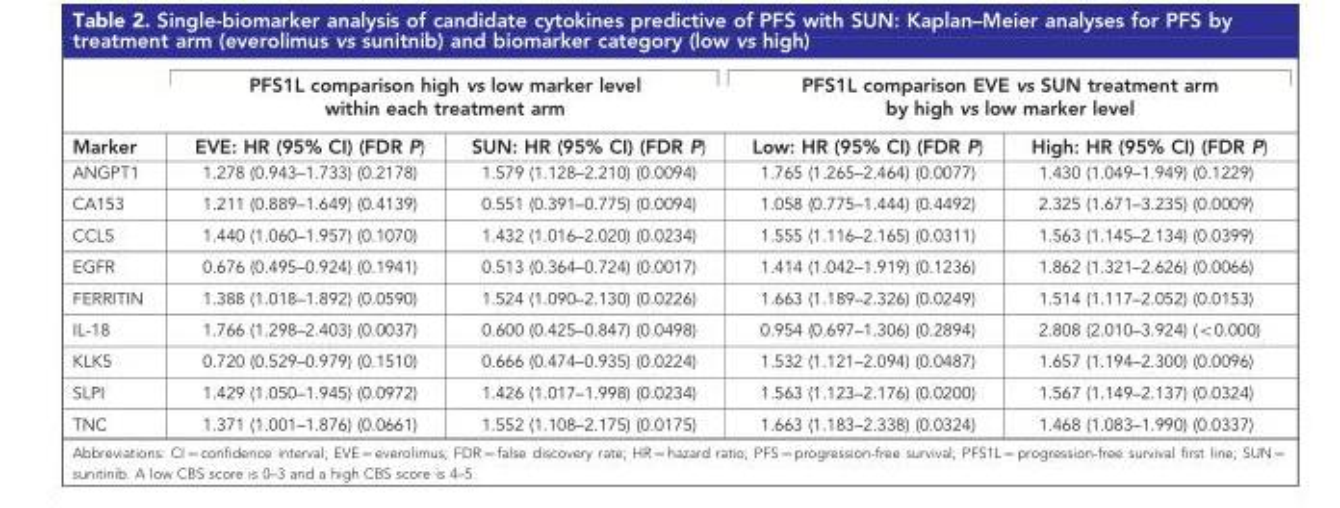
<table><thead><tr><td rowspan="2">Marker</td><td colspan="2">PFS1L comparison high vs low marker level within each treatment arm</td><td colspan="2">PFS1L comparison EVE vs SUN treatment arm by high vs low marker level</td></tr><tr><td>EVE: HR (95% CI) (FDR P)</td><td>SUN: HR (95% CI) (FDR P)</td><td>Low: HR (95% CI) (FDR P)</td><td>High: HR (95% CI) (FDR P)</td></tr></thead><tbody><tr><td>ANGPT1</td><td>1.278 (0.943–1.733) (0.2178)</td><td>1.579 (1.128–2.210) (0.0094)</td><td>1.765 (1.265–2.464) (0.0077)</td><td>1.430 (1.049–1.949) (0.1229)</td></tr><tr><td>CA153</td><td>1.211 (0.889–1.649) (0.4139)</td><td>0.551 (0.391–0.775) (0.0094)</td><td>1.058 (0.775–1.444) (0.4492)</td><td>2.325 (1.671–3.235) (0.0009)</td></tr><tr><td>CCL5</td><td>1.440 (1.060–1.957) (0.1070)</td><td>1.432 (1.016–2.020) (0.0234)</td><td>1.555 (1.116–2.165) (0.0311)</td><td>1.563 (1.145–2.134) (0.0399)</td></tr><tr><td>EGFR</td><td>0.676 (0.495–0.924) (0.1941)</td><td>0.513 (0.364–0.724) (0.0017)</td><td>1.414 (1.042–1.919) (0.1236)</td><td>1.862 (1.321–2.626) (0.0066)</td></tr><tr><td>FERRITIN</td><td>1.388 (1.018–1.892) (0.0590)</td><td>1.524 (1.090–2.130) (0.0226)</td><td>1.663 (1.189–2.326) (0.0249)</td><td>1.514 (1.117–2.052) (0.0153)</td></tr><tr><td>IL-18</td><td>1.766 (1.298–2.403) (0.0037)</td><td>0.600 (0.425–0.847) (0.0498)</td><td>0.954 (0.697–1.306) (0.2894)</td><td>2.808 (2.010–3.924) (&lt;0.000)</td></tr><tr><td>KLK5</td><td>0.720 (0.529–0.979) (0.1510)</td><td>0.666 (0.474–0.935) (0.0224)</td><td>1.532 (1.121–2.094) (0.0487)</td><td>1.657 (1.194–2.300) (0.0096)</td></tr><tr><td>SLPI</td><td>1.429 (1.050–1.945) (0.0972)</td><td>1.426 (1.017–1.998) (0.0234)</td><td>1.563 (1.123–2.176) (0.0200)</td><td>1.567 (1.149–2.137) (0.0324)</td></tr><tr><td>TNC</td><td>1.371 (1.001–1.876) (0.0661)</td><td>1.552 (1.108–2.175) (0.0175)</td><td>1.663 (1.183–2.338) (0.0324)</td><td>1.468 (1.083–1.990) (0.0337)</td></tr></tbody></table>